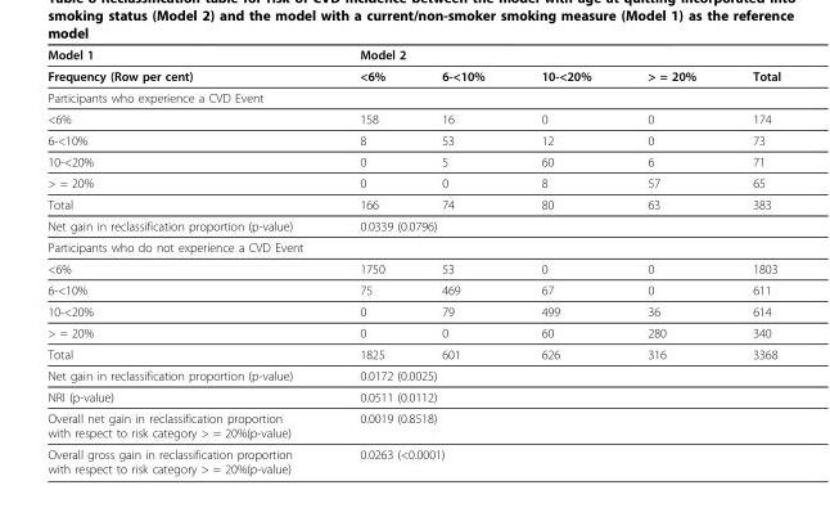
<table><thead><tr><td rowspan="2">Model 1 Frequency (Row per cent)</td><td colspan="4">Model 2</td><td rowspan="2">Total</td></tr><tr><td>&lt;6%</td><td>6-&lt;10%</td><td>10-&lt;20%</td><td>&gt; = 20%</td></tr></thead><tbody><tr><td colspan="6">Participants who experience a CVD Event</td></tr><tr><td>&lt;6%</td><td>158</td><td>16</td><td>0</td><td>0</td><td>174</td></tr><tr><td>6-&lt;10%</td><td>8</td><td>53</td><td>12</td><td>0</td><td>73</td></tr><tr><td>10-&lt;20%</td><td>0</td><td>5</td><td>60</td><td>6</td><td>71</td></tr><tr><td>&gt; = 20%</td><td>0</td><td>0</td><td>8</td><td>57</td><td>65</td></tr><tr><td>Total</td><td>166</td><td>74</td><td>80</td><td>63</td><td>383</td></tr><tr><td>Net gain in reclassification proportion (p-value)</td><td colspan="4">0.0339 (0.0796)</td><td></td></tr><tr><td colspan="6">Participants who do not experience a CVD Event</td></tr><tr><td>&lt;6%</td><td>1750</td><td>53</td><td>0</td><td>0</td><td>1803</td></tr><tr><td>6-&lt;10%</td><td>75</td><td>469</td><td>67</td><td>0</td><td>611</td></tr><tr><td>10-&lt;20%</td><td>0</td><td>79</td><td>499</td><td>36</td><td>614</td></tr><tr><td>&gt; = 20%</td><td>0</td><td>0</td><td>60</td><td>280</td><td>340</td></tr><tr><td>Total</td><td>1825</td><td>601</td><td>626</td><td>316</td><td>3368</td></tr><tr><td>Net gain in reclassification proportion (p-value)</td><td colspan="4">0.0172 (0.0025)</td><td></td></tr><tr><td>NRI (p-value)</td><td colspan="4">0.0511 (0.0112)</td><td></td></tr><tr><td>Overall net gain in reclassification proportion with respect to risk category &gt; = 20%(p-value)</td><td colspan="4">0.0019 (0.8518)</td><td></td></tr><tr><td>Overall gross gain in reclassification proportion with respect to risk category &gt; = 20%(p-value)</td><td colspan="4">0.0263 (&lt;0.0001)</td><td></td></tr></tbody></table>